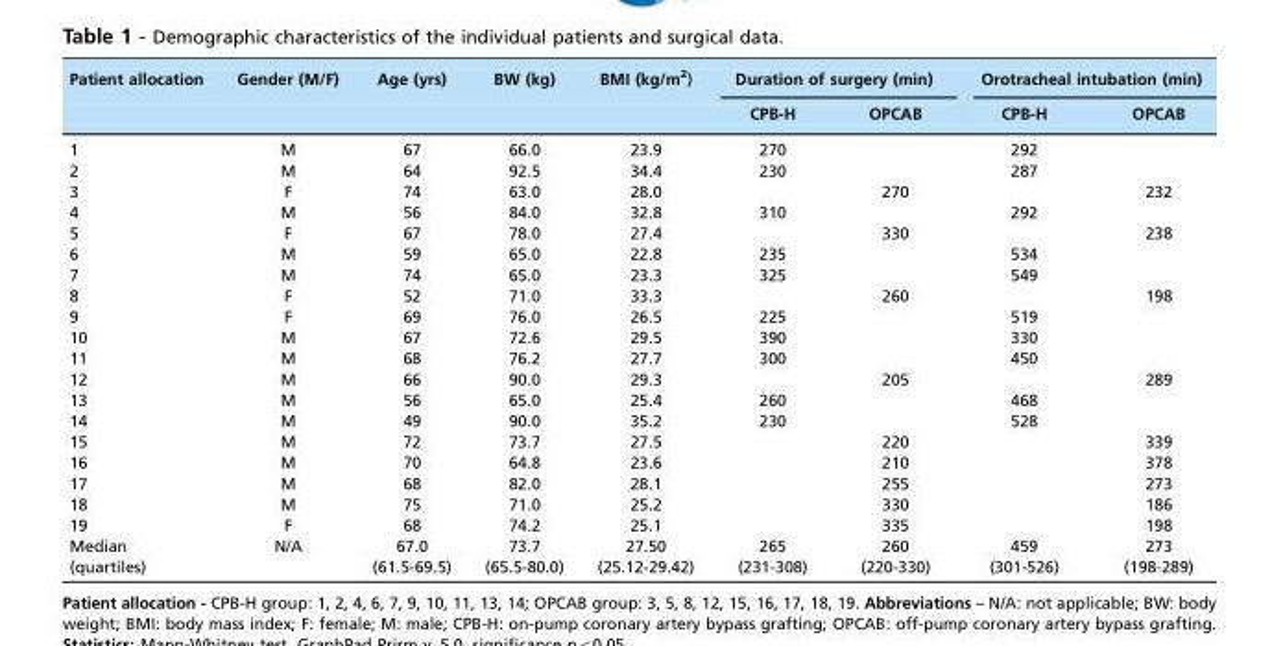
<table><thead><tr><td rowspan="2">Patient allocation</td><td rowspan="2">Gender (M/F)</td><td rowspan="2">Age (yrs)</td><td rowspan="2">BW (kg)</td><td rowspan="2">BMI (kg/m<sup>2</sup>)</td><td colspan="2">Duration of surgery (min)</td><td colspan="2">Orotracheal intubation (min)</td></tr><tr><td>CPB-H</td><td>OPCAB</td><td>CPB-H</td><td>OPCAB</td></tr></thead><tbody><tr><td>1</td><td>M</td><td>67</td><td>66.0</td><td>23.9</td><td>270</td><td></td><td>292</td><td></td></tr><tr><td>2</td><td>M</td><td>64</td><td>92.5</td><td>34.4</td><td>230</td><td></td><td>287</td><td></td></tr><tr><td>3</td><td>F</td><td>74</td><td>63.0</td><td>28.0</td><td></td><td>270</td><td></td><td>232</td></tr><tr><td>4</td><td>M</td><td>56</td><td>84.0</td><td>32.8</td><td>310</td><td></td><td>292</td><td></td></tr><tr><td>5</td><td>F</td><td>67</td><td>78.0</td><td>27.4</td><td></td><td>330</td><td></td><td>238</td></tr><tr><td>6</td><td>M</td><td>59</td><td>65.0</td><td>22.8</td><td>235</td><td></td><td>534</td><td></td></tr><tr><td>7</td><td>M</td><td>74</td><td>65.0</td><td>23.3</td><td>325</td><td></td><td>549</td><td></td></tr><tr><td>8</td><td>F</td><td>52</td><td>71.0</td><td>33.3</td><td></td><td>260</td><td></td><td>198</td></tr><tr><td>9</td><td>F</td><td>69</td><td>76.0</td><td>26.5</td><td>225</td><td></td><td>519</td><td></td></tr><tr><td>10</td><td>M</td><td>67</td><td>72.6</td><td>29.5</td><td>390</td><td></td><td>330</td><td></td></tr><tr><td>11</td><td>M</td><td>68</td><td>76.2</td><td>27.7</td><td>300</td><td></td><td>450</td><td></td></tr><tr><td>12</td><td>M</td><td>66</td><td>90.0</td><td>29.3</td><td></td><td>205</td><td></td><td>289</td></tr><tr><td>13</td><td>M</td><td>56</td><td>65.0</td><td>25.4</td><td>260</td><td></td><td>468</td><td></td></tr><tr><td>14</td><td>M</td><td>49</td><td>90.0</td><td>35.2</td><td>230</td><td></td><td>528</td><td></td></tr><tr><td>15</td><td>M</td><td>72</td><td>73.7</td><td>27.5</td><td></td><td>220</td><td></td><td>339</td></tr><tr><td>16</td><td>M</td><td>70</td><td>64.8</td><td>23.6</td><td></td><td>210</td><td></td><td>378</td></tr><tr><td>17</td><td>M</td><td>68</td><td>82.0</td><td>28.1</td><td></td><td>255</td><td></td><td>273</td></tr><tr><td>18</td><td>M</td><td>75</td><td>71.0</td><td>25.2</td><td></td><td>330</td><td></td><td>186</td></tr><tr><td>19</td><td>F</td><td>68</td><td>74.2</td><td>25.1</td><td></td><td>335</td><td></td><td>198</td></tr><tr><td>Median (quartiles)</td><td>N/A</td><td>67.0 (61.5-69.5)</td><td>73.7 (65.5-80.0)</td><td>27.50 (25.12-29.42)</td><td>265 (231-308)</td><td>260 (220-330)</td><td>459 (301-526)</td><td>273 (198-289)</td></tr></tbody></table>